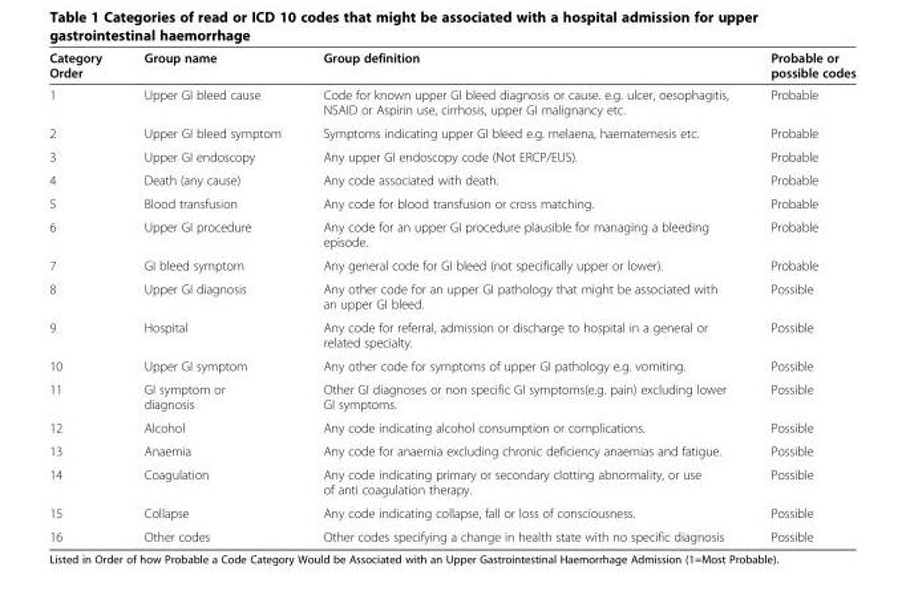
<table><thead><tr><td>Category Order</td><td>Group name</td><td>Group definition</td><td>Probable or possible codes</td></tr></thead><tbody><tr><td>1</td><td>Upper GI bleed cause</td><td>Code for known upper GI bleed diagnosis or cause. e.g. ulcer, oesophagitis, NSAID or Aspirin use, cirrhosis, upper GI malignancy etc.</td><td>Probable</td></tr><tr><td>2</td><td>Upper GI bleed symptom</td><td>Symptoms indicating upper GI bleed e.g. melaena, haematemesis etc.</td><td>Probable</td></tr><tr><td>3</td><td>Upper GI endoscopy</td><td>Any upper GI endoscopy code (Not ERCP/EUS).</td><td>Probable</td></tr><tr><td>4</td><td>Death (any cause)</td><td>Any code associated with death.</td><td>Probable</td></tr><tr><td>5</td><td>Blood transfusion</td><td>Any code for blood transfusion or cross matching.</td><td>Probable</td></tr><tr><td>6</td><td>Upper GI procedure</td><td>Any code for an upper GI procedure plausible for managing a bleeding episode.</td><td>Probable</td></tr><tr><td>7</td><td>GI bleed symptom</td><td>Any general code for GI bleed (not specifically upper or lower).</td><td>Probable</td></tr><tr><td>8</td><td>Upper GI diagnosis</td><td>Any other code for an upper GI pathology that might be associated with an upper GI bleed.</td><td>Possible</td></tr><tr><td>9</td><td>Hospital</td><td>Any code for referral, admission or discharge to hospital in a general or related specialty.</td><td>Possible</td></tr><tr><td>10</td><td>Upper GI symptom</td><td>Any other code for symptoms of upper GI pathology e.g. vomiting.</td><td>Possible</td></tr><tr><td>11</td><td>GI symptom or diagnosis</td><td>Other GI diagnoses or non specific GI symptoms(e.g. pain) excluding lower GI symptoms.</td><td>Possible</td></tr><tr><td>12</td><td>Alcohol</td><td>Any code indicating alcohol consumption or complications.</td><td>Possible</td></tr><tr><td>13</td><td>Anaemia</td><td>Any code for anaemia excluding chronic deficiency anaemias and fatigue.</td><td>Possible</td></tr><tr><td>14</td><td>Coagulation</td><td>Any code indicating primary or secondary clotting abnormality, or use of anti coagulation therapy.</td><td>Possible</td></tr><tr><td>15</td><td>Collapse</td><td>Any code indicating collapse, fall or loss of consciousness.</td><td>Possible</td></tr><tr><td>16</td><td>Other codes</td><td>Other codes specifying a change in health state with no specific diagnosis</td><td>Possible</td></tr></tbody></table>